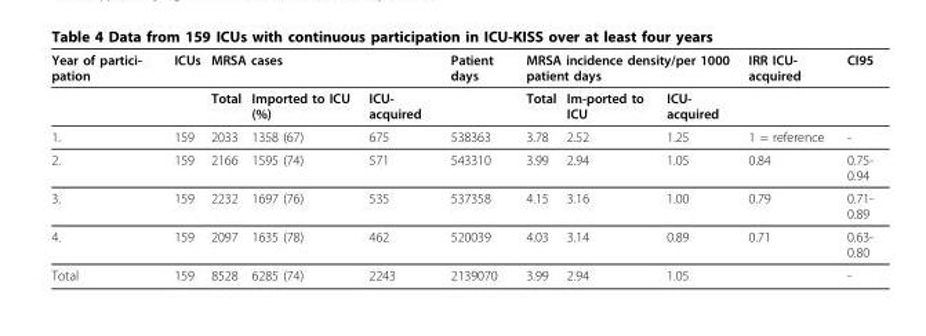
<table><thead><tr><td rowspan="2">Year of partici- pation</td><td rowspan="2">ICUs</td><td colspan="3">MRSA cases</td><td rowspan="2">Patient days</td><td colspan="3">MRSA incidence density/per 1000 patient days</td><td rowspan="2">IRR ICU- acquired</td><td rowspan="2">CI95</td></tr><tr><td>Total</td><td>Imported to ICU (%)</td><td>ICU- acquired</td><td>Total</td><td>Im-ported to ICU</td><td>ICU- acquired</td></tr></thead><tbody><tr><td>1.</td><td>159</td><td>2033</td><td>1358 (67)</td><td>675</td><td>538363</td><td>3.78</td><td>2.52</td><td>1.25</td><td>1 = reference</td><td>-</td></tr><tr><td>2.</td><td>159</td><td>2166</td><td>1595 (74)</td><td>571</td><td>543310</td><td>3.99</td><td>2.94</td><td>1.05</td><td>0.84</td><td>0.75- 0.94</td></tr><tr><td>3.</td><td>159</td><td>2232</td><td>1697 (76)</td><td>535</td><td>537358</td><td>4.15</td><td>3.16</td><td>1.00</td><td>0.79</td><td>0.71- 0.89</td></tr><tr><td>4.</td><td>159</td><td>2097</td><td>1635 (78)</td><td>462</td><td>520039</td><td>4.03</td><td>3.14</td><td>0.89</td><td>0.71</td><td>0.63- 0.80</td></tr><tr><td>Total</td><td>159</td><td>8528</td><td>6285 (74)</td><td>2243</td><td>2139070</td><td>3.99</td><td>2.94</td><td>1.05</td><td></td><td>-</td></tr></tbody></table>